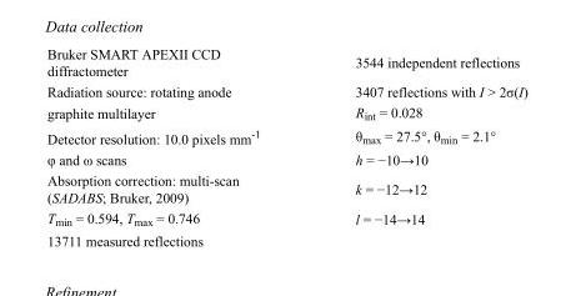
<table><tbody><tr><td>Bruker SMART APEXII CCD diffractometer</td><td>3544 independent reflections</td></tr><tr><td>Radiation source: rotating anode</td><td>3407 reflections with I &gt; 2σ(I)</td></tr><tr><td>graphite multilayer</td><td>R<sub>int</sub> = 0.028</td></tr><tr><td>Detector resolution: 10.0 pixels mm<sup>-1</sup></td><td>θ<sub>max</sub> = 27.5°, θ<sub>min</sub> = 2.1°</td></tr><tr><td>φ and ω scans</td><td>h = −10→10</td></tr><tr><td>Absorption correction: multi-scan (SADABS; Bruker, 2009)</td><td>k = −12→12</td></tr><tr><td>T<sub>min</sub> = 0.594, T<sub>max</sub> = 0.746</td><td>l = −14→14</td></tr><tr><td>13711 measured reflections</td><td></td></tr></tbody></table>